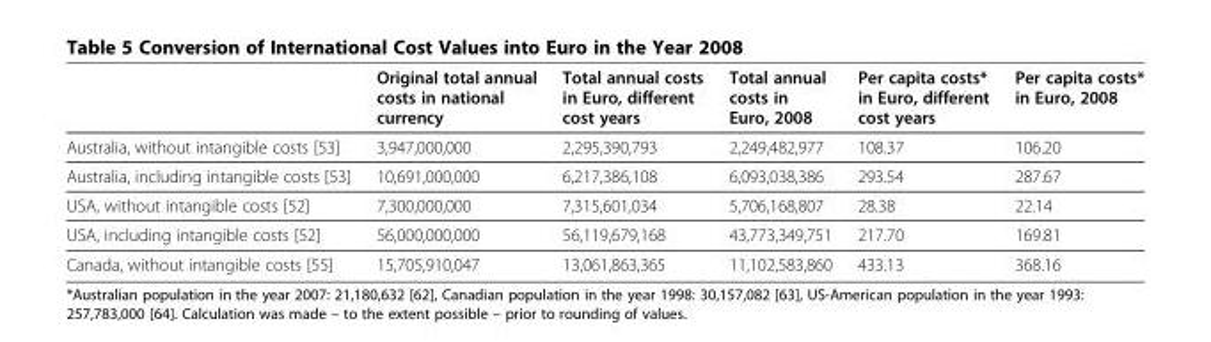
<table><thead><tr><td></td><td>Original total annual costs in national currency</td><td>Total annual costs in Euro, different cost years</td><td>Total annual costs in Euro, 2008</td><td>Per capita costs* in Euro, different cost years</td><td>Per capita costs* in Euro, 2008</td></tr></thead><tbody><tr><td>Australia, without intangible costs [53]</td><td>3,947,000,000</td><td>2,295,390,793</td><td>2,249,482,977</td><td>108.37</td><td>106.20</td></tr><tr><td>Australia, including intangible costs [53]</td><td>10,691,000,000</td><td>6,217,386,108</td><td>6,093,038,386</td><td>293.54</td><td>287.67</td></tr><tr><td>USA, without intangible costs [52]</td><td>7,300,000,000</td><td>7,315,601,034</td><td>5,706,168,807</td><td>28.38</td><td>22.14</td></tr><tr><td>USA, including intangible costs [52]</td><td>56,000,000,000</td><td>56,119,679,168</td><td>43,773,349,751</td><td>217.70</td><td>169.81</td></tr><tr><td>Canada, without intangible costs [55]</td><td>15,705,910,047</td><td>13,061,863,365</td><td>11,102,583,860</td><td>433.13</td><td>368.16</td></tr></tbody></table>